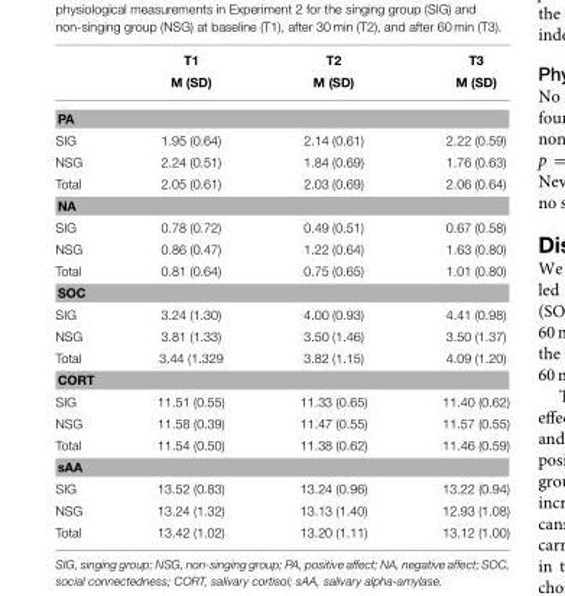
<table><thead><tr><td rowspan="2"></td><td rowspan="2">T1 M (SD)</td><td rowspan="2">T2 M (SD)</td><td rowspan="2">T3 M (SD)</td></tr><tr></tr></thead><tbody><tr><td colspan="4">PA</td></tr><tr><td>SIG</td><td>1.95 (0.64)</td><td>2.14 (0.61)</td><td>2.22 (0.59)</td></tr><tr><td>NSG</td><td>2.24 (0.51)</td><td>1.84 (0.69)</td><td>1.76 (0.63)</td></tr><tr><td>Total</td><td>2.05 (0.61)</td><td>2.03 (0.69)</td><td>2.06 (0.64)</td></tr><tr><td colspan="4">NA</td></tr><tr><td>SIG</td><td>0.78 (0.72)</td><td>0.49 (0.51)</td><td>0.67 (0.58)</td></tr><tr><td>NSG</td><td>0.86 (0.47)</td><td>1.22 (0.64)</td><td>1.63 (0.80)</td></tr><tr><td>Total</td><td>0.81 (0.64)</td><td>0.75 (0.65)</td><td>1.01 (0.80)</td></tr><tr><td colspan="4">SOC</td></tr><tr><td>SIG</td><td>3.24 (1.30)</td><td>4.00 (0.93)</td><td>4.41 (0.98)</td></tr><tr><td>NSG</td><td>3.81 (1.33)</td><td>3.50 (1.46)</td><td>3.50 (1.37)</td></tr><tr><td>Total</td><td>3.44 (1.329</td><td>3.82 (1.15)</td><td>4.09 (1.20)</td></tr><tr><td colspan="4">CORT</td></tr><tr><td>SIG</td><td>11.51 (0.55)</td><td>11.33 (0.65)</td><td>11.40 (0.62)</td></tr><tr><td>NSG</td><td>11.58 (0.39)</td><td>11.47 (0.55)</td><td>11.57 (0.55)</td></tr><tr><td>Total</td><td>11.54 (0.50)</td><td>11.38 (0.62)</td><td>11.46 (0.59)</td></tr><tr><td colspan="4">sAA</td></tr><tr><td>SIG</td><td>13.52 (0.83)</td><td>13.24 (0.96)</td><td>13.22 (0.94)</td></tr><tr><td>NSG</td><td>13.24 (1.32)</td><td>13.13 (1.40)</td><td>12.93 (1.08)</td></tr><tr><td>Total</td><td>13.42 (1.02)</td><td>13.20 (1.11)</td><td>13.12 (1.00)</td></tr></tbody></table>